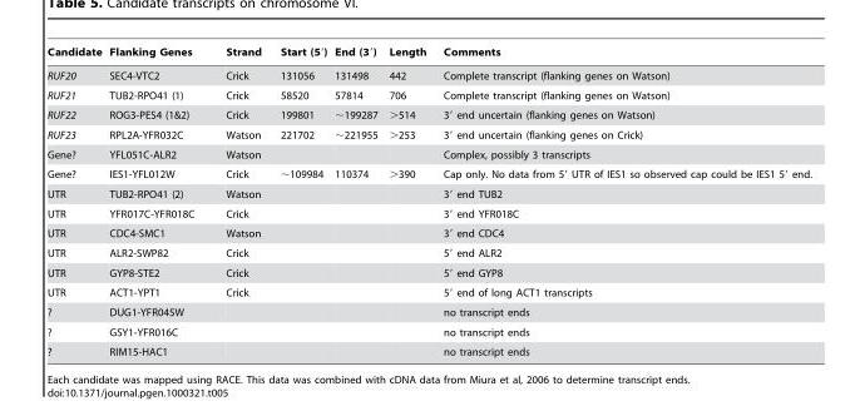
<table><thead><tr><td>Candidate</td><td>Flanking Genes</td><td>Strand</td><td>Start (5′)</td><td>End (3′)</td><td>Length</td><td>Comments</td></tr></thead><tbody><tr><td>RUF20</td><td>SEC4-VTC2</td><td>Crick</td><td>131056</td><td>131498</td><td>442</td><td>Complete transcript (flanking genes on Watson)</td></tr><tr><td>RUF21</td><td>TUB2-RPO41 (1)</td><td>Crick</td><td>58520</td><td>57814</td><td>706</td><td>Complete transcript (flanking genes on Watson)</td></tr><tr><td>RUF22</td><td>ROG3-PES4 (1&amp;2)</td><td>Crick</td><td>199801</td><td>∼199287</td><td>&gt;514</td><td>3′ end uncertain (flanking genes on Watson)</td></tr><tr><td>RUF23</td><td>RPL2A-YFR032C</td><td>Watson</td><td>221702</td><td>∼221955</td><td>&gt;253</td><td>3′ end uncertain (flanking genes on Crick)</td></tr><tr><td>Gene?</td><td>YFL051C-ALR2</td><td>Watson</td><td></td><td></td><td></td><td>Complex, possibly 3 transcripts</td></tr><tr><td>Gene?</td><td>IES1-YFL012W</td><td>Crick</td><td>∼109984</td><td>110374</td><td>&gt;390</td><td>Cap only. No data from 5′ UTR of IES1 so observed cap could be IES1 5′ end.</td></tr><tr><td>UTR</td><td>TUB2-RPO41 (2)</td><td>Watson</td><td></td><td></td><td></td><td>3′ end TUB2</td></tr><tr><td>UTR</td><td>YFR017C-YFR018C</td><td>Crick</td><td></td><td></td><td></td><td>3′ end YFR018C</td></tr><tr><td>UTR</td><td>CDC4-SMC1</td><td>Watson</td><td></td><td></td><td></td><td>3′ end CDC4</td></tr><tr><td>UTR</td><td>ALR2-SWP82</td><td>Crick</td><td></td><td></td><td></td><td>5′ end ALR2</td></tr><tr><td>UTR</td><td>GYP8-STE2</td><td>Crick</td><td></td><td></td><td></td><td>5′ end GYP8</td></tr><tr><td>UTR</td><td>ACT1-YPT1</td><td>Crick</td><td></td><td></td><td></td><td>5′ end of long ACT1 transcripts</td></tr><tr><td>?</td><td>DUG1-YFR045W</td><td></td><td></td><td></td><td></td><td>no transcript ends</td></tr><tr><td>?</td><td>GSY1-YFR016C</td><td></td><td></td><td></td><td></td><td>no transcript ends</td></tr><tr><td>?</td><td>RIM15-HAC1</td><td></td><td></td><td></td><td></td><td>no transcript ends</td></tr></tbody></table>